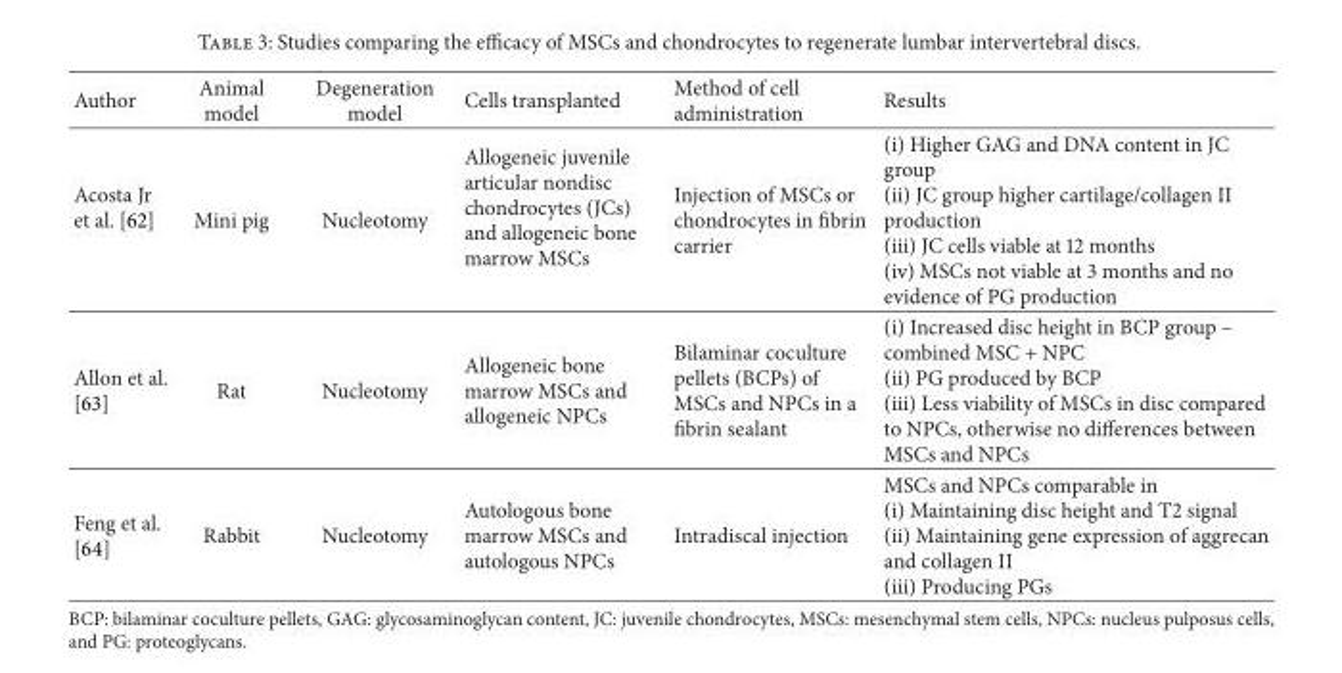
<table><thead><tr><td>Author</td><td>Animal model</td><td>Degeneration model</td><td>Cells transplanted</td><td>Method of cell administration</td><td>Results</td></tr></thead><tbody><tr><td>Acosta Jr et al. [62]</td><td>Mini pig</td><td>Nucleotomy</td><td>Allogeneic juvenile articular nondisc chondrocytes (JCs) and allogeneic bone marrow MSCs</td><td>Injection of MSCs or chondrocytes in fibrin carrier</td><td>(i) Higher GAG and DNA content in JC group (ii) JC group higher cartilage/collagen II production (iii) JC cells viable at 12 months (iv) MSCs not viable at 3 months and no evidence of PG production</td></tr><tr><td>Allon et al. [63]</td><td>Rat</td><td>Nucleotomy</td><td>Allogeneic bone marrow MSCs and allogeneic NPCs</td><td>Bilaminar coculture pellets (BCPs) of MSCs and NPCs in a fibrin sealant</td><td>(i) Increased disc height in BCP group – combined MSC + NPC (ii) PG produced by BCP (iii) Less viability of MSCs in disc compared to NPCs, otherwise no differences between MSCs and NPCs</td></tr><tr><td>Feng et al. [64]</td><td>Rabbit</td><td>Nucleotomy</td><td>Autologous bone marrow MSCs and autologous NPCs</td><td>Intradiscal injection</td><td>MSCs and NPCs comparable in (i) Maintaining disc height and T2 signal (ii) Maintaining gene expression of aggrecan and collagen II (iii) Producing PGs</td></tr></tbody></table>